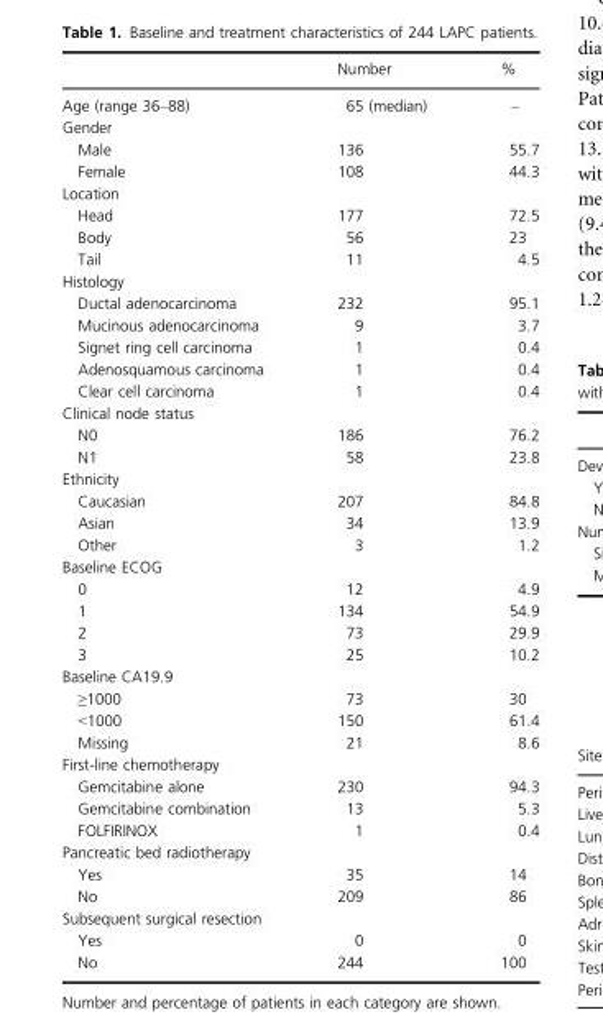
<table><thead><tr><td></td><td>Number</td><td>%</td></tr></thead><tbody><tr><td>Age (range 36–88)</td><td>65 (median)</td><td>–</td></tr><tr><td colspan="3">Gender</td></tr><tr><td>Male</td><td>136</td><td>55.7</td></tr><tr><td>Female</td><td>108</td><td>44.3</td></tr><tr><td colspan="3">Location</td></tr><tr><td>Head</td><td>177</td><td>72.5</td></tr><tr><td>Body</td><td>56</td><td>23</td></tr><tr><td>Tail</td><td>11</td><td>4.5</td></tr><tr><td colspan="3">Histology</td></tr><tr><td>Ductal adenocarcinoma</td><td>232</td><td>95.1</td></tr><tr><td>Mucinous adenocarcinoma</td><td>9</td><td>3.7</td></tr><tr><td>Signet ring cell carcinoma</td><td>1</td><td>0.4</td></tr><tr><td>Adenosquamous carcinoma</td><td>1</td><td>0.4</td></tr><tr><td>Clear cell carcinoma</td><td>1</td><td>0.4</td></tr><tr><td colspan="3">Clinical node status</td></tr><tr><td>N0</td><td>186</td><td>76.2</td></tr><tr><td>N1</td><td>58</td><td>23.8</td></tr><tr><td colspan="3">Ethnicity</td></tr><tr><td>Caucasian</td><td>207</td><td>84.8</td></tr><tr><td>Asian</td><td>34</td><td>13.9</td></tr><tr><td>Other</td><td>3</td><td>1.2</td></tr><tr><td colspan="3">Baseline ECOG</td></tr><tr><td>0</td><td>12</td><td>4.9</td></tr><tr><td>1</td><td>134</td><td>54.9</td></tr><tr><td>2</td><td>73</td><td>29.9</td></tr><tr><td>3</td><td>25</td><td>10.2</td></tr><tr><td colspan="3">Baseline CA19.9</td></tr><tr><td>≥1000</td><td>73</td><td>30</td></tr><tr><td>&lt;1000</td><td>150</td><td>61.4</td></tr><tr><td>Missing</td><td>21</td><td>8.6</td></tr><tr><td colspan="3">First-line chemotherapy</td></tr><tr><td>Gemcitabine alone</td><td>230</td><td>94.3</td></tr><tr><td>Gemcitabine combination</td><td>13</td><td>5.3</td></tr><tr><td>FOLFIRINOX</td><td>1</td><td>0.4</td></tr><tr><td colspan="3">Pancreatic bed radiotherapy</td></tr><tr><td>Yes</td><td>35</td><td>14</td></tr><tr><td>No</td><td>209</td><td>86</td></tr><tr><td colspan="3">Subsequent surgical resection</td></tr><tr><td>Yes</td><td>0</td><td>0</td></tr><tr><td>No</td><td>244</td><td>100</td></tr></tbody></table>